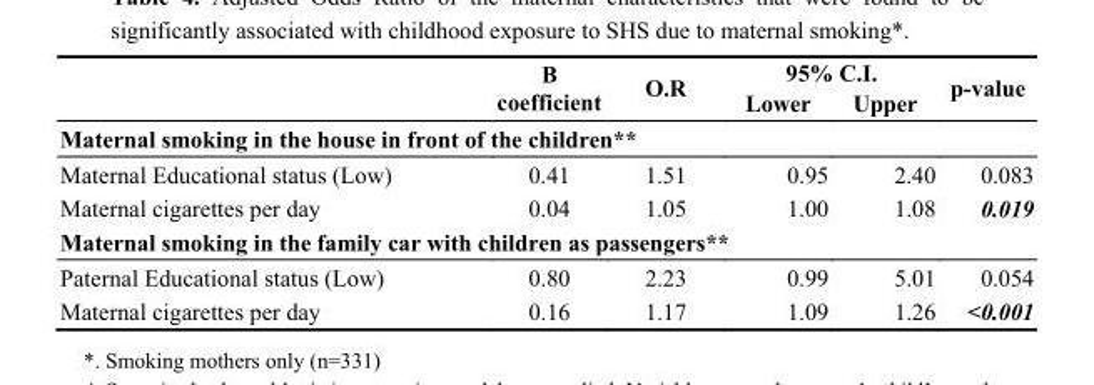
<table><thead><tr><td rowspan="2"></td><td rowspan="2">B coefficient</td><td rowspan="2">O.R</td><td colspan="2">95% C.I.</td><td rowspan="2">p-value</td></tr><tr><td>Lower</td><td>Upper</td></tr></thead><tbody><tr><td colspan="6">Maternal smoking in the house in front of the children**</td></tr><tr><td>Maternal Educational status (Low)</td><td>0.41</td><td>1.51</td><td>0.95</td><td>2.40</td><td>0.083</td></tr><tr><td>Maternal cigarettes per day</td><td>0.04</td><td>1.05</td><td>1.00</td><td>1.08</td><td>0.019</td></tr><tr><td colspan="6">Maternal smoking in the family car with children as passengers**</td></tr><tr><td>Paternal Educational status (Low)</td><td>0.80</td><td>2.23</td><td>0.99</td><td>5.01</td><td>0.054</td></tr><tr><td>Maternal cigarettes per day</td><td>0.16</td><td>1.17</td><td>1.09</td><td>1.26</td><td>&lt;0.001</td></tr></tbody></table>